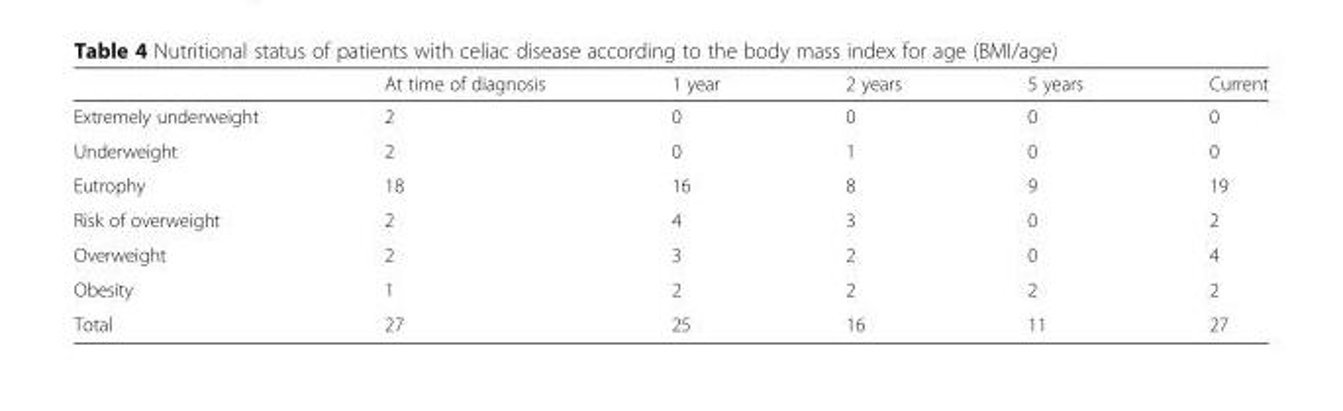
<table><thead><tr><td></td><td>At time of diagnosis</td><td>1 year</td><td>2 years</td><td>5 years</td><td>Current</td></tr></thead><tbody><tr><td>Extremely underweight</td><td>2</td><td>0</td><td>0</td><td>0</td><td>0</td></tr><tr><td>Underweight</td><td>2</td><td>0</td><td>1</td><td>0</td><td>0</td></tr><tr><td>Eutrophy</td><td>18</td><td>16</td><td>8</td><td>9</td><td>19</td></tr><tr><td>Risk of overweight</td><td>2</td><td>4</td><td>3</td><td>0</td><td>2</td></tr><tr><td>Overweight</td><td>2</td><td>3</td><td>2</td><td>0</td><td>4</td></tr><tr><td>Obesity</td><td>1</td><td>2</td><td>2</td><td>2</td><td>2</td></tr><tr><td>Total</td><td>27</td><td>25</td><td>16</td><td>11</td><td>27</td></tr></tbody></table>